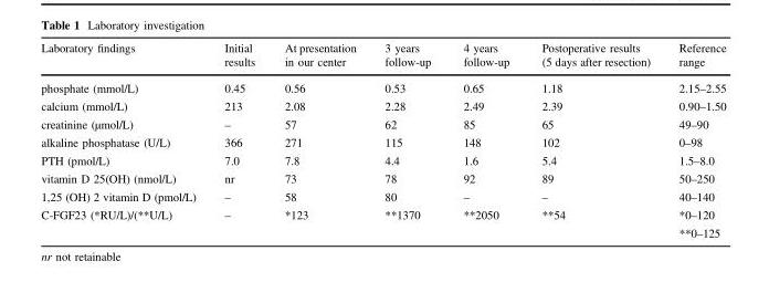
<table><thead><tr><td>Laboratory findings</td><td>Initial results</td><td>At presentation in our center</td><td>3 years follow-up</td><td>4 years follow-up</td><td>Postoperative results (5 days after resection)</td><td>Reference range</td></tr></thead><tbody><tr><td>phosphate (mmol/L)</td><td>0.45</td><td>0.56</td><td>0.53</td><td>0.65</td><td>1.18</td><td>2.15–2.55</td></tr><tr><td>calcium (mmol/L)</td><td>213</td><td>2.08</td><td>2.28</td><td>2.49</td><td>2.39</td><td>0.90–1.50</td></tr><tr><td>creatinine (µmol/L)</td><td>–</td><td>57</td><td>62</td><td>85</td><td>65</td><td>49–90</td></tr><tr><td>alkaline phosphatase (U/L)</td><td>366</td><td>271</td><td>115</td><td>148</td><td>102</td><td>0–98</td></tr><tr><td>PTH (pmol/L)</td><td>7.0</td><td>7.8</td><td>4.4</td><td>1.6</td><td>5.4</td><td>1.5–8.0</td></tr><tr><td>vitamin D 25(OH) (nmol/L)</td><td>nr</td><td>73</td><td>78</td><td>92</td><td>89</td><td>50–250</td></tr><tr><td>1,25 (OH) 2 vitamin D (pmol/L)</td><td>–</td><td>58</td><td>80</td><td>–</td><td>–</td><td>40–140</td></tr><tr><td rowspan="2">C-FGF23 (*RU/L)/(**U/L)</td><td>–</td><td>*123</td><td>**1370</td><td>**2050</td><td>**54</td><td>*0–120</td></tr><tr><td></td><td></td><td></td><td></td><td></td><td>**0–125</td></tr></tbody></table>